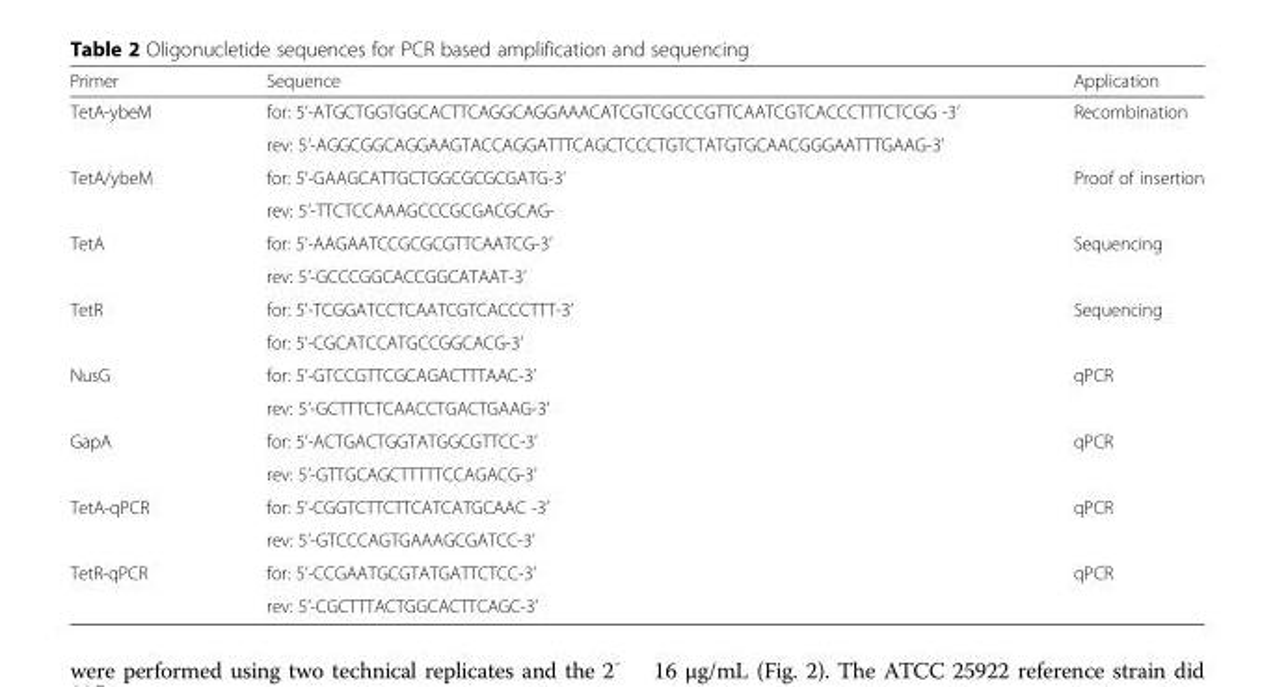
<table><thead><tr><td>Primer</td><td>Sequence</td><td>Application</td></tr></thead><tbody><tr><td rowspan="2">TetA-ybeM</td><td>for: 5’-ATGCTGGTGGCACTTCAGGCAGGAAACATCGTCGCCCGTTCAATCGTCACCCTTTCTCGG -3’</td><td>Recombination</td></tr><tr><td>rev: 5’-AGGCGGCAGGAAGTACCAGGATTTCAGCTCCCTGTCTATGTGCAACGGGAATTTGAAG-3’</td><td></td></tr><tr><td rowspan="2">TetA/ybeM</td><td>for: 5’-GAAGCATTGCTGGCGCGCGATG-3’</td><td>Proof of insertion</td></tr><tr><td>rev: 5’-TTCTCCAAAGCCCGCGACGCAG-</td><td></td></tr><tr><td rowspan="2">TetA</td><td>for: 5’-AAGAATCCGCGCGTTCAATCG-3’</td><td>Sequencing</td></tr><tr><td>rev: 5’-GCCCGGCACCGGCATAAT-3’</td><td></td></tr><tr><td rowspan="2">TetR</td><td>for: 5’-TCGGATCCTCAATCGTCACCCTTT-3’</td><td>Sequencing</td></tr><tr><td>for: 5’-CGCATCCATGCCGGCACG-3’</td><td></td></tr><tr><td rowspan="2">NusG</td><td>for: 5’-GTCCGTTCGCAGACTTTAAC-3’</td><td>qPCR</td></tr><tr><td>rev: 5’-GCTTTCTCAACCTGACTGAAG-3’</td><td></td></tr><tr><td rowspan="2">GapA</td><td>for: 5’-ACTGACTGGTATGGCGTTCC-3’</td><td>qPCR</td></tr><tr><td>rev: 5’-GTTGCAGCTTTTTCCAGACG-3’</td><td></td></tr><tr><td rowspan="2">TetA-qPCR</td><td>for: 5’-CGGTCTTCTTCATCATGCAAC -3’</td><td>qPCR</td></tr><tr><td>rev: 5’-GTCCCAGTGAAAGCGATCC-3’</td><td></td></tr><tr><td rowspan="2">TetR-qPCR</td><td>for: 5’-CCGAATGCGTATGATTCTCC-3’</td><td>qPCR</td></tr><tr><td>rev: 5’-CGCTTTACTGGCACTTCAGC-3’</td><td></td></tr></tbody></table>